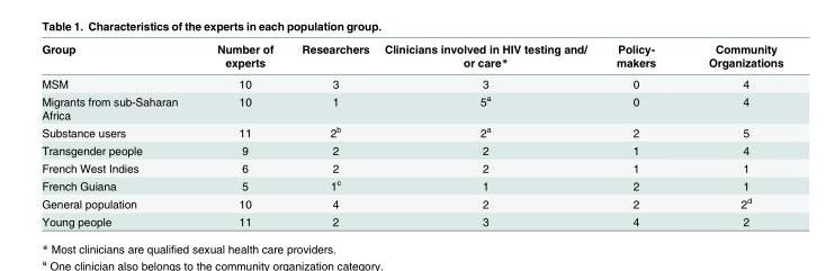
<table><thead><tr><td>Group</td><td>Number of experts</td><td>Researchers</td><td>Clinicians involved in HIV testing and/ or care*</td><td>Policy- makers</td><td>Community Organizations</td></tr></thead><tbody><tr><td>MSM</td><td>10</td><td>3</td><td>3</td><td>0</td><td>4</td></tr><tr><td>Migrants from sub-Saharan Africa</td><td>10</td><td>1</td><td>5<sup>a</sup></td><td>0</td><td>4</td></tr><tr><td>Substance users</td><td>11</td><td>2<sup>b</sup></td><td>2<sup>a</sup></td><td>2</td><td>5</td></tr><tr><td>Transgender people</td><td>9</td><td>2</td><td>2</td><td>1</td><td>4</td></tr><tr><td>French West Indies</td><td>6</td><td>2</td><td>2</td><td>1</td><td>1</td></tr><tr><td>French Guiana</td><td>5</td><td>1<sup>c</sup></td><td>1</td><td>2</td><td>1</td></tr><tr><td>General population</td><td>10</td><td>4</td><td>2</td><td>2</td><td>2<sup>d</sup></td></tr><tr><td>Young people</td><td>11</td><td>2</td><td>3</td><td>4</td><td>2</td></tr></tbody></table>